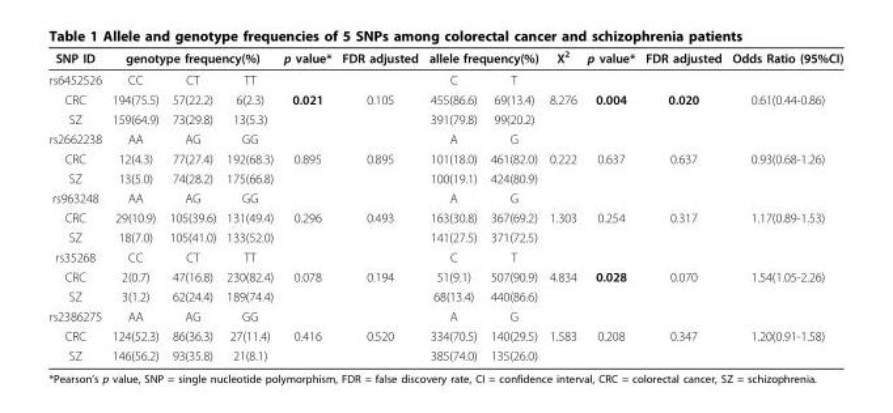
<table><thead><tr><td rowspan="2">SNP ID rs6452526</td><td colspan="3">genotype frequency(%)</td><td rowspan="2">p value*</td><td rowspan="2">FDR adjusted</td><td colspan="2">allele frequency(%)</td><td rowspan="2">X<sup>2</sup></td><td rowspan="2">p value*</td><td rowspan="2">FDR adjusted</td><td rowspan="2">Odds Ratio (95%CI)</td></tr><tr><td>CC</td><td>CT</td><td>TT</td><td>C</td><td>T</td></tr></thead><tbody><tr><td>CRC</td><td>194(75.5)</td><td>57(22.2)</td><td>6(2.3)</td><td>0.021</td><td>0.105</td><td>455(86.6)</td><td>69(13.4)</td><td>8.276</td><td>0.004</td><td>0.020</td><td>0.61(0.44-0.86)</td></tr><tr><td>SZ</td><td>159(64.9)</td><td>73(29.8)</td><td>13(5.3)</td><td></td><td></td><td>391(79.8)</td><td>99(20.2)</td><td></td><td></td><td></td><td></td></tr><tr><td>rs2662238</td><td>AA</td><td>AG</td><td>GG</td><td></td><td></td><td>A</td><td>G</td><td></td><td></td><td></td><td></td></tr><tr><td>CRC</td><td>12(4.3)</td><td>77(27.4)</td><td>192(68.3)</td><td>0.895</td><td>0.895</td><td>101(18.0)</td><td>461(82.0)</td><td>0.222</td><td>0.637</td><td>0.637</td><td>0.93(0.68-1.26)</td></tr><tr><td>SZ</td><td>13(5.0)</td><td>74(28.2)</td><td>175(66.8)</td><td></td><td></td><td>100(19.1)</td><td>424(80.9)</td><td></td><td></td><td></td><td></td></tr><tr><td>rs963248</td><td>AA</td><td>AG</td><td>GG</td><td></td><td></td><td>A</td><td>G</td><td></td><td></td><td></td><td></td></tr><tr><td>CRC</td><td>29(10.9)</td><td>105(39.6)</td><td>131(49.4)</td><td>0.296</td><td>0.493</td><td>163(30.8)</td><td>367(69.2)</td><td>1.303</td><td>0.254</td><td>0.317</td><td>1.17(0.89-1.53)</td></tr><tr><td>SZ</td><td>18(7.0)</td><td>105(41.0)</td><td>133(52.0)</td><td></td><td></td><td>141(27.5)</td><td>371(72.5)</td><td></td><td></td><td></td><td></td></tr><tr><td>rs35268</td><td>CC</td><td>CT</td><td>TT</td><td></td><td></td><td>C</td><td>T</td><td></td><td></td><td></td><td></td></tr><tr><td>CRC</td><td>2(0.7)</td><td>47(16.8)</td><td>230(82.4)</td><td>0.078</td><td>0.194</td><td>51(9.1)</td><td>507(90.9)</td><td>4.834</td><td>0.028</td><td>0.070</td><td>1.54(1.05-2.26)</td></tr><tr><td>SZ</td><td>3(1.2)</td><td>62(24.4)</td><td>189(74.4)</td><td></td><td></td><td>68(13.4)</td><td>440(86.6)</td><td></td><td></td><td></td><td></td></tr><tr><td>rs2386275</td><td>AA</td><td>AG</td><td>GG</td><td></td><td></td><td>A</td><td>G</td><td></td><td></td><td></td><td></td></tr><tr><td>CRC</td><td>124(52.3)</td><td>86(36.3)</td><td>27(11.4)</td><td>0.416</td><td>0.520</td><td>334(70.5)</td><td>140(29.5)</td><td>1.583</td><td>0.208</td><td>0.347</td><td>1.20(0.91-1.58)</td></tr><tr><td>SZ</td><td>146(56.2)</td><td>93(35.8)</td><td>21(8.1)</td><td></td><td></td><td>385(74.0)</td><td>135(26.0)</td><td></td><td></td><td></td><td></td></tr></tbody></table>